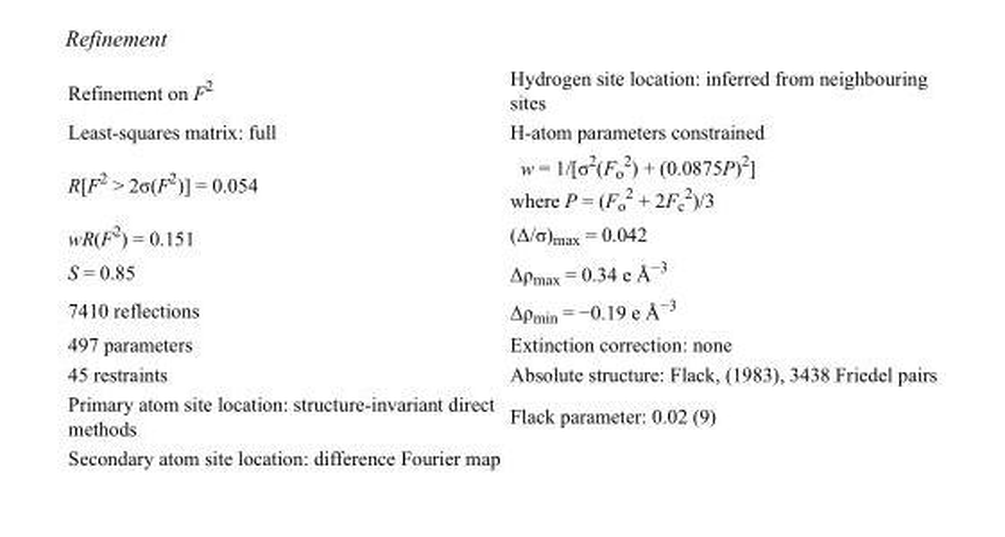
<table><tbody><tr><td>Refinement on F<sup>2</sup></td><td>Hydrogen site location: inferred from neighbouring sites</td></tr><tr><td>Least-squares matrix: full</td><td>H-atom parameters constrained</td></tr><tr><td>R[F<sup>2</sup> &gt; 2σ(F<sup>2</sup>)] = 0.054</td><td>w = 1/[σ<sup>2</sup>(F<sub>o</sub> <sup>2</sup>) + (0.0875P)<sup>2</sup>] where P = (F<sub>o</sub> <sup>2</sup> + 2F<sub>c</sub> <sup>2</sup>)/3</td></tr><tr><td>wR(F<sup>2</sup>) = 0.151</td><td>(Δ/σ)<sub>max</sub> = 0.042</td></tr><tr><td>S = 0.85</td><td>Δρ<sub>max</sub> = 0.34 e Å<sup>−3</sup></td></tr><tr><td>7410 reflections</td><td>Δρ<sub>min</sub> = −0.19 e Å<sup>−3</sup></td></tr><tr><td>497 parameters</td><td>Extinction correction: none</td></tr><tr><td>45 restraints</td><td>Absolute structure: Flack, (1983), 3438 Friedel pairs</td></tr><tr><td>Primary atom site location: structure-invariant direct methods</td><td>Flack parameter: 0.02 (9)</td></tr><tr><td>Secondary atom site location: difference Fourier map</td><td></td></tr></tbody></table>